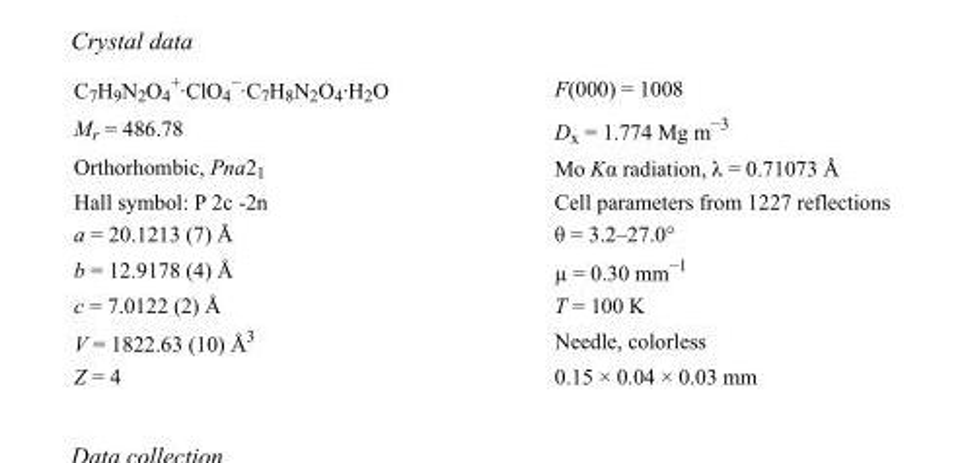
<table><tbody><tr><td>C<sub>7</sub>H<sub>9</sub>N<sub>2</sub>O<sub>4</sub> <sup>+</sup>·ClO<sub>4</sub> <sup>−</sup>·C<sub>7</sub>H<sub>8</sub>N<sub>2</sub>O<sub>4</sub>·H<sub>2</sub>O</td><td>F(000) = 1008</td></tr><tr><td>M<sub>r</sub> = 486.78</td><td>D<sub>x</sub> = 1.774 Mg m<sup>−3</sup></td></tr><tr><td>Orthorhombic, Pna2<sub>1</sub></td><td>Mo Kα radiation, λ = 0.71073 Å</td></tr><tr><td>Hall symbol: P 2c -2n</td><td>Cell parameters from 1227 reflections</td></tr><tr><td>a = 20.1213 (7) Å</td><td>θ = 3.2–27.0°</td></tr><tr><td>b = 12.9178 (4) Å</td><td>µ = 0.30 mm<sup>−1</sup></td></tr><tr><td>c = 7.0122 (2) Å</td><td>T = 100 K</td></tr><tr><td>V = 1822.63 (10) Å<sup>3</sup></td><td>Needle, colorless</td></tr><tr><td>Z = 4</td><td>0.15 × 0.04 × 0.03 mm</td></tr></tbody></table>